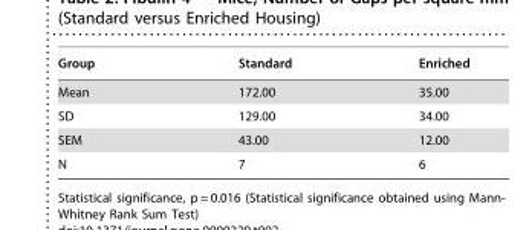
<table><thead><tr><td>Group</td><td>Standard</td><td>Enriched</td></tr></thead><tbody><tr><td>Mean</td><td>172.00</td><td>35.00</td></tr><tr><td>SD</td><td>129.00</td><td>34.00</td></tr><tr><td>SEM</td><td>43.00</td><td>12.00</td></tr><tr><td>N</td><td>7</td><td>6</td></tr></tbody></table>